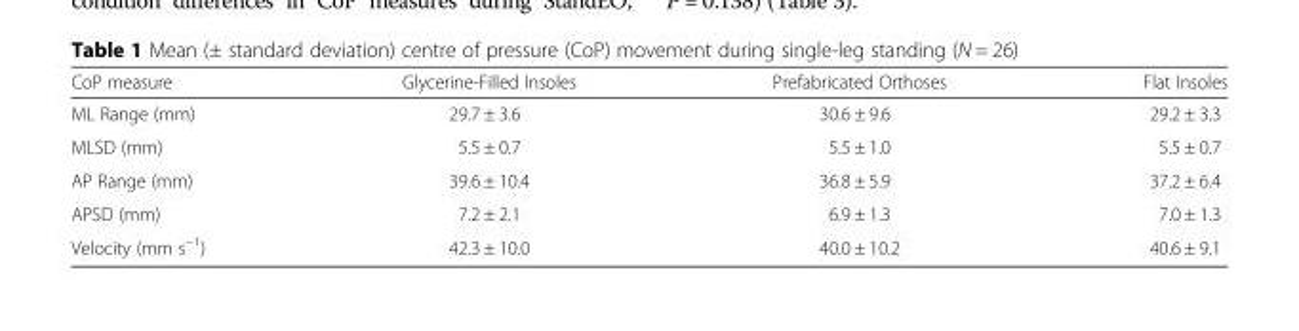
<table><thead><tr><td>CoP measure</td><td>Glycerine-Filled Insoles</td><td>Prefabricated Orthoses</td><td>Flat Insoles</td></tr></thead><tbody><tr><td>ML Range (mm)</td><td>29.7 ± 3.6</td><td>30.6 ± 9.6</td><td>29.2 ± 3.3</td></tr><tr><td>MLSD (mm)</td><td>5.5 ± 0.7</td><td>5.5 ± 1.0</td><td>5.5 ± 0.7</td></tr><tr><td>AP Range (mm)</td><td>39.6 ± 10.4</td><td>36.8 ± 5.9</td><td>37.2 ± 6.4</td></tr><tr><td>APSD (mm)</td><td>7.2 ± 2.1</td><td>6.9 ± 1.3</td><td>7.0 ± 1.3</td></tr><tr><td>Velocity (mm s<sup>−1</sup>)</td><td>42.3 ± 10.0</td><td>40.0 ± 10.2</td><td>40.6 ± 9.1</td></tr></tbody></table>